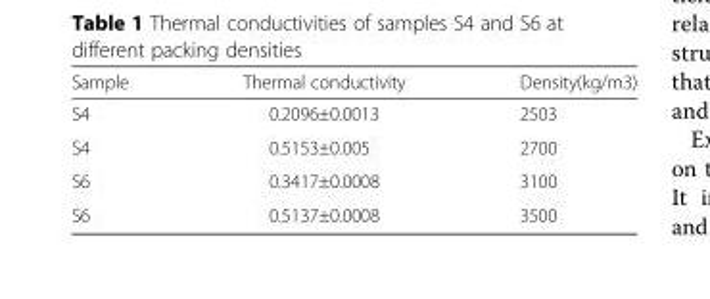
<table><thead><tr><td>Sample</td><td>Thermal conductivity</td><td>Density(kg/m3)</td></tr></thead><tbody><tr><td>S4</td><td>0.2096±0.0013</td><td>2503</td></tr><tr><td>S4</td><td>0.5153±0.005</td><td>2700</td></tr><tr><td>S6</td><td>0.3417±0.0008</td><td>3100</td></tr><tr><td>S6</td><td>0.5137±0.0008</td><td>3500</td></tr></tbody></table>